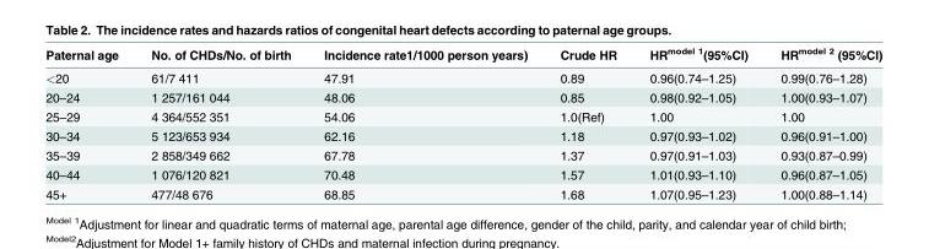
<table><thead><tr><td>Paternal age</td><td>No. of CHDs/No. of birth</td><td>Incidence rate1/1000 person years)</td><td>Crude HR</td><td>HR<sup>model 1</sup>(95%CI)</td><td>HR<sup>model 2</sup> (95%CI)</td></tr></thead><tbody><tr><td>&lt;20</td><td>61/7 411</td><td>47.91</td><td>0.89</td><td>0.96(0.74–1.25)</td><td>0.99(0.76–1.28)</td></tr><tr><td>20–24</td><td>1 257/161 044</td><td>48.06</td><td>0.85</td><td>0.98(0.92–1.05)</td><td>1.00(0.93–1.07)</td></tr><tr><td>25–29</td><td>4 364/552 351</td><td>54.06</td><td>1.0(Ref)</td><td>1.00</td><td>1.00</td></tr><tr><td>30–34</td><td>5 123/653 934</td><td>62.16</td><td>1.18</td><td>0.97(0.93–1.02)</td><td>0.96(0.91–1.00)</td></tr><tr><td>35–39</td><td>2 858/349 662</td><td>67.78</td><td>1.37</td><td>0.97(0.91–1.03)</td><td>0.93(0.87–0.99)</td></tr><tr><td>40–44</td><td>1 076/120 821</td><td>70.48</td><td>1.57</td><td>1.01(0.93–1.10)</td><td>0.96(0.87–1.05)</td></tr><tr><td>45+</td><td>477/48 676</td><td>68.85</td><td>1.68</td><td>1.07(0.95–1.23)</td><td>1.00(0.88–1.14)</td></tr></tbody></table>